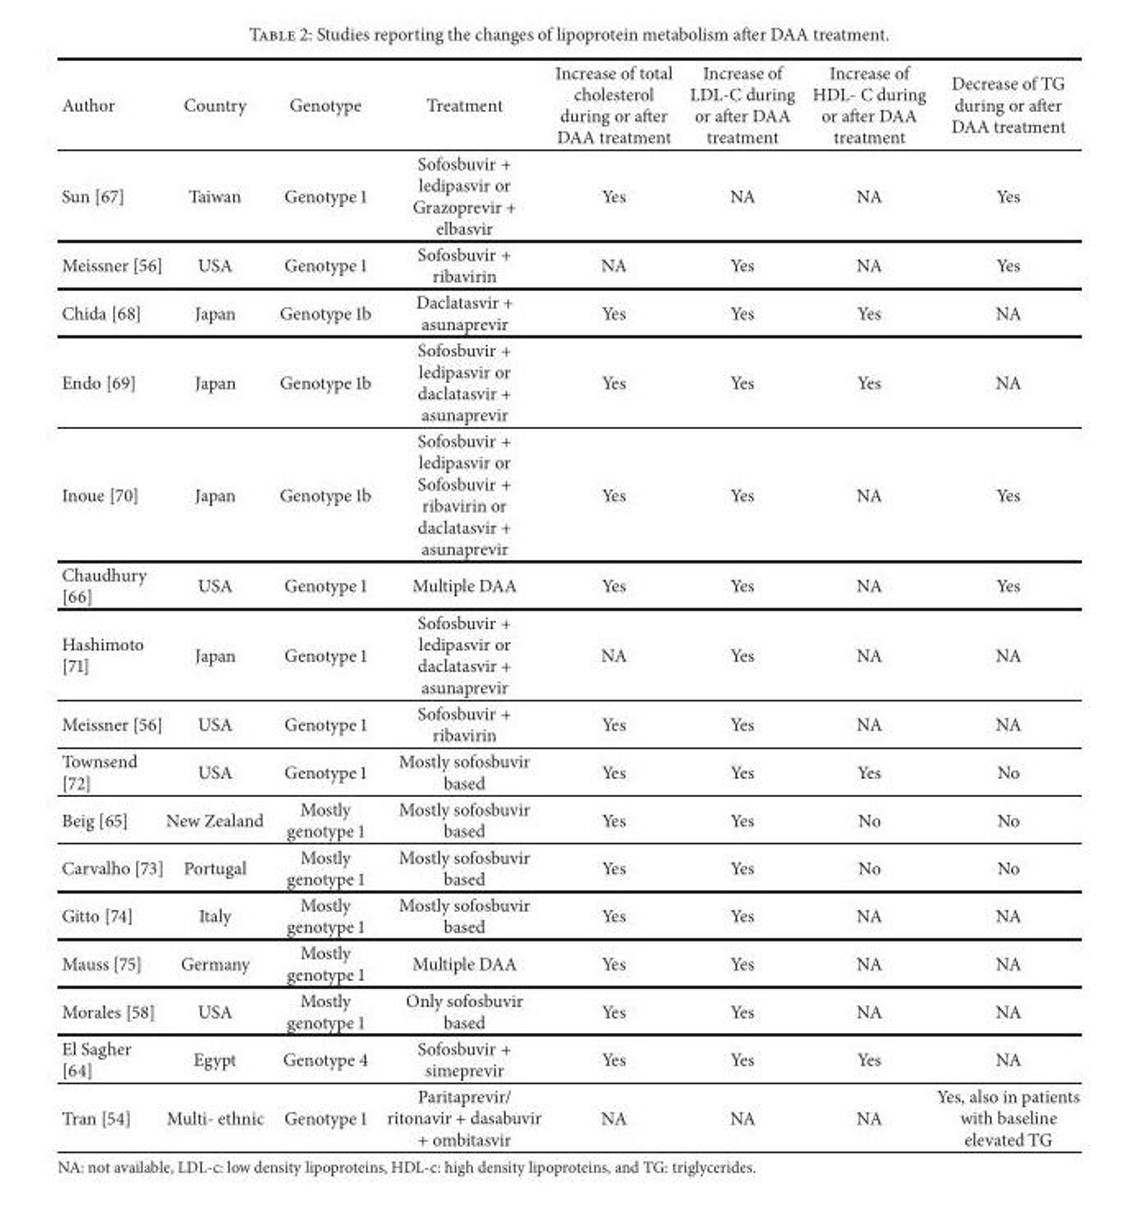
<table><thead><tr><td>Author</td><td>Country</td><td>Genotype</td><td>Treatment</td><td>Increase of total cholesterol during or after DAA treatment</td><td>Increase of LDL-C during or after DAA treatment</td><td>Increase of HDL- C during or after DAA treatment</td><td>Decrease of TG during or after DAA treatment</td></tr></thead><tbody><tr><td>Sun [67]</td><td>Taiwan</td><td>Genotype 1</td><td>Sofosbuvir + ledipasvir or Grazoprevir + elbasvir</td><td>Yes</td><td>NA</td><td>NA</td><td>Yes</td></tr><tr><td>Meissner [56]</td><td>USA</td><td>Genotype 1</td><td>Sofosbuvir + ribavirin</td><td>NA</td><td>Yes</td><td>NA</td><td>Yes</td></tr><tr><td>Chida [68]</td><td>Japan</td><td>Genotype 1b</td><td>Daclatasvir + asunaprevir</td><td>Yes</td><td>Yes</td><td>Yes</td><td>NA</td></tr><tr><td>Endo [69]</td><td>Japan</td><td>Genotype 1b</td><td>Sofosbuvir + ledipasvir or daclatasvir + asunaprevir</td><td>Yes</td><td>Yes</td><td>Yes</td><td>NA</td></tr><tr><td>Inoue [70]</td><td>Japan</td><td>Genotype 1b</td><td>Sofosbuvir + ledipasvir or Sofosbuvir + ribavirin or daclatasvir + asunaprevir</td><td>Yes</td><td>Yes</td><td>NA</td><td>Yes</td></tr><tr><td>Chaudhury [66]</td><td>USA</td><td>Genotype 1</td><td>Multiple DAA</td><td>Yes</td><td>Yes</td><td>NA</td><td>Yes</td></tr><tr><td>Hashimoto [71]</td><td>Japan</td><td>Genotype 1</td><td>Sofosbuvir + ledipasvir or daclatasvir + asunaprevir</td><td>NA</td><td>Yes</td><td>NA</td><td>NA</td></tr><tr><td>Meissner [56]</td><td>USA</td><td>Genotype 1</td><td>Sofosbuvir + ribavirin</td><td>Yes</td><td>Yes</td><td>NA</td><td>NA</td></tr><tr><td>Townsend [72]</td><td>USA</td><td>Genotype 1</td><td>Mostly sofosbuvir based</td><td>Yes</td><td>Yes</td><td>Yes</td><td>No</td></tr><tr><td>Beig [65]</td><td>New Zealand</td><td>Mostly genotype 1</td><td>Mostly sofosbuvir based</td><td>Yes</td><td>Yes</td><td>No</td><td>No</td></tr><tr><td>Carvalho [73]</td><td>Portugal</td><td>Mostly genotype 1</td><td>Mostly sofosbuvir based</td><td>Yes</td><td>Yes</td><td>No</td><td>No</td></tr><tr><td>Gitto [74]</td><td>Italy</td><td>Mostly genotype 1</td><td>Mostly sofosbuvir based</td><td>Yes</td><td>Yes</td><td>NA</td><td>NA</td></tr><tr><td>Mauss [75]</td><td>Germany</td><td>Mostly genotype 1</td><td>Multiple DAA</td><td>Yes</td><td>Yes</td><td>NA</td><td>NA</td></tr><tr><td>Morales [58]</td><td>USA</td><td>Mostly genotype 1</td><td>Only sofosbuvir based</td><td>Yes</td><td>Yes</td><td>NA</td><td>NA</td></tr><tr><td>El Sagher [64]</td><td>Egypt</td><td>Genotype 4</td><td>Sofosbuvir + simeprevir</td><td>Yes</td><td>Yes</td><td>Yes</td><td>NA</td></tr><tr><td>Tran [54]</td><td>Multi- ethnic</td><td>Genotype 1</td><td>Paritaprevir/ ritonavir + dasabuvir + ombitasvir</td><td>NA</td><td>NA</td><td>NA</td><td>Yes, also in patients with baseline elevated TG</td></tr></tbody></table>